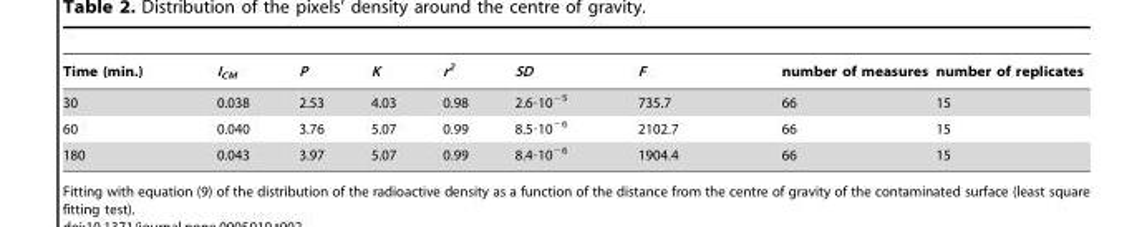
<table><thead><tr><td>Time (min.)</td><td>I<sub>CM</sub></td><td>P</td><td>K</td><td>r<sup>2</sup></td><td>SD</td><td>F</td><td>number of measures</td><td>number of replicates</td></tr></thead><tbody><tr><td>30</td><td>0.038</td><td>2.53</td><td>4.03</td><td>0.98</td><td>2.6·10<sup>−5</sup></td><td>735.7</td><td>66</td><td>15</td></tr><tr><td>60</td><td>0.040</td><td>3.76</td><td>5.07</td><td>0.99</td><td>8.5·10<sup>−6</sup></td><td>2102.7</td><td>66</td><td>15</td></tr><tr><td>180</td><td>0.043</td><td>3.97</td><td>5.07</td><td>0.99</td><td>8.4·10<sup>−6</sup></td><td>1904.4</td><td>66</td><td>15</td></tr></tbody></table>